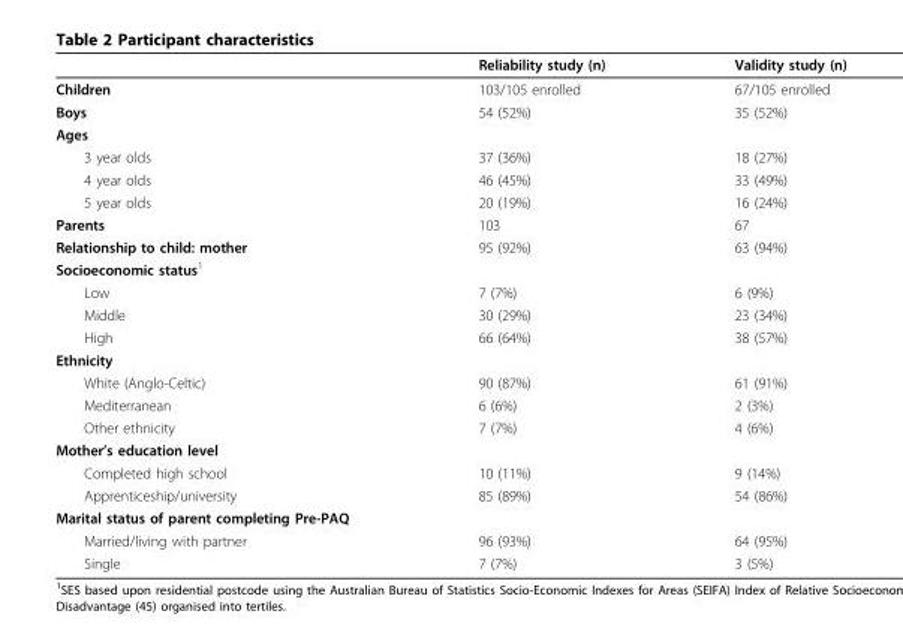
<table><thead><tr><td></td><td>Reliability study (n)</td><td>Validity study (n)</td></tr></thead><tbody><tr><td>Children</td><td>103/105 enrolled</td><td>67/105 enrolled</td></tr><tr><td>Boys</td><td>54 (52%)</td><td>35 (52%)</td></tr><tr><td colspan="3">Ages</td></tr><tr><td>3 year olds</td><td>37 (36%)</td><td>18 (27%)</td></tr><tr><td>4 year olds</td><td>46 (45%)</td><td>33 (49%)</td></tr><tr><td>5 year olds</td><td>20 (19%)</td><td>16 (24%)</td></tr><tr><td>Parents</td><td>103</td><td>67</td></tr><tr><td>Relationship to child: mother</td><td>95 (92%)</td><td>63 (94%)</td></tr><tr><td colspan="3">Socioeconomic status<sup>1</sup></td></tr><tr><td>Low</td><td>7 (7%)</td><td>6 (9%)</td></tr><tr><td>Middle</td><td>30 (29%)</td><td>23 (34%)</td></tr><tr><td>High</td><td>66 (64%)</td><td>38 (57%)</td></tr><tr><td colspan="3">Ethnicity</td></tr><tr><td>White (Anglo-Celtic)</td><td>90 (87%)</td><td>61 (91%)</td></tr><tr><td>Mediterranean</td><td>6 (6%)</td><td>2 (3%)</td></tr><tr><td>Other ethnicity</td><td>7 (7%)</td><td>4 (6%)</td></tr><tr><td colspan="3">Mother’s education level</td></tr><tr><td>Completed high school</td><td>10 (11%)</td><td>9 (14%)</td></tr><tr><td>Apprenticeship/university</td><td>85 (89%)</td><td>54 (86%)</td></tr><tr><td colspan="3">Marital status of parent completing Pre-PAQ</td></tr><tr><td>Married/living with partner</td><td>96 (93%)</td><td>64 (95%)</td></tr><tr><td>Single</td><td>7 (7%)</td><td>3 (5%)</td></tr></tbody></table>